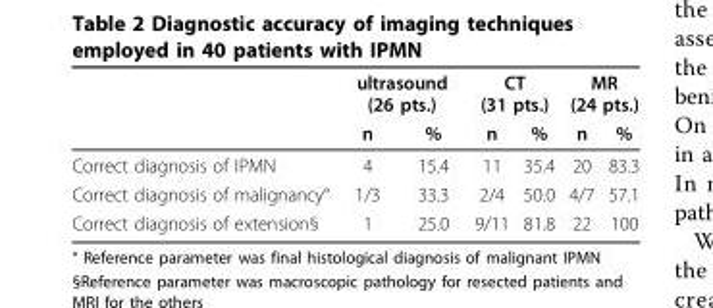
<table><thead><tr><td rowspan="2"></td><td colspan="2">ultrasound (26 pts.)</td><td colspan="2">CT (31 pts.)</td><td colspan="2">MR (24 pts.)</td></tr><tr><td>n</td><td>%</td><td>n</td><td>%</td><td>n</td><td>%</td></tr></thead><tbody><tr><td>Correct diagnosis of IPMN</td><td>4</td><td>15.4</td><td>11</td><td>35.4</td><td>20</td><td>83.3</td></tr><tr><td>Correct diagnosis of malignancy°</td><td>1/3</td><td>33.3</td><td>2/4</td><td>50.0</td><td>4/7</td><td>57.1</td></tr><tr><td>Correct diagnosis of extension§</td><td>1</td><td>25.0</td><td>9/11</td><td>81.8</td><td>22</td><td>100</td></tr></tbody></table>